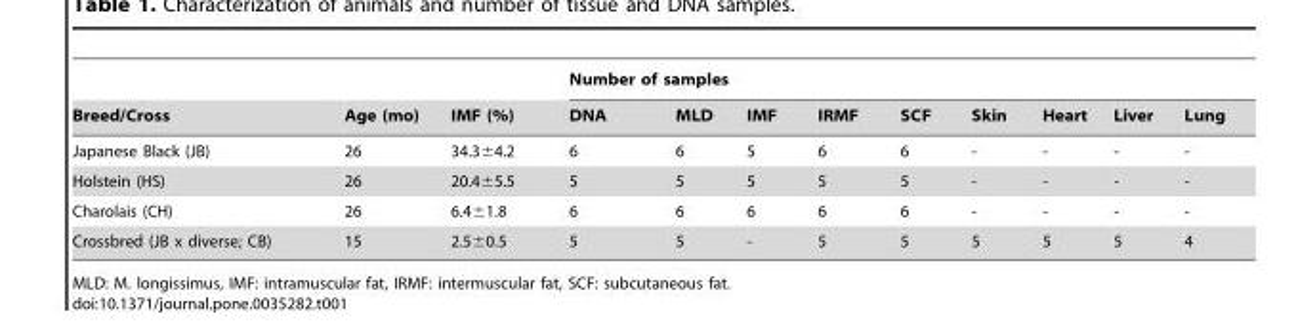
<table><thead><tr><td rowspan="2">Breed/Cross</td><td rowspan="2">Age (mo)</td><td rowspan="2">IMF (%)</td><td colspan="9">Number of samples</td></tr><tr><td>DNA</td><td>MLD</td><td>IMF</td><td>IRMF</td><td>SCF</td><td>Skin</td><td>Heart</td><td>Liver</td><td>Lung</td></tr></thead><tbody><tr><td>Japanese Black (JB)</td><td>26</td><td>34.3±4.2</td><td>6</td><td>6</td><td>5</td><td>6</td><td>6</td><td>-</td><td>-</td><td>-</td><td>-</td></tr><tr><td>Holstein (HS)</td><td>26</td><td>20.4±5.5</td><td>5</td><td>5</td><td>5</td><td>5</td><td>5</td><td>-</td><td>-</td><td>-</td><td>-</td></tr><tr><td>Charolais (CH)</td><td>26</td><td>6.4±1.8</td><td>6</td><td>6</td><td>6</td><td>6</td><td>6</td><td>-</td><td>-</td><td>-</td><td>-</td></tr><tr><td>Crossbred (JB x diverse; CB)</td><td>15</td><td>2.5±0.5</td><td>5</td><td>5</td><td>-</td><td>5</td><td>5</td><td>5</td><td>5</td><td>5</td><td>4</td></tr></tbody></table>